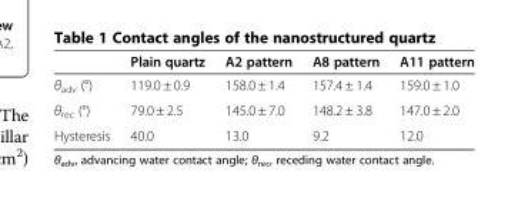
<table><thead><tr><td></td><td>Plain quartz</td><td>A2 pattern</td><td>A8 pattern</td><td>A11 pattern</td></tr></thead><tbody><tr><td>θ<sub>adv</sub> (°)</td><td>119.0 ± 0.9</td><td>158.0 ± 1.4</td><td>157.4 ± 1.4</td><td>159.0 ± 1.0</td></tr><tr><td>θ<sub>rec</sub> (°)</td><td>79.0 ± 2.5</td><td>145.0 ± 7.0</td><td>148.2 ± 3.8</td><td>147.0 ± 2.0</td></tr><tr><td>Hysteresis</td><td>40.0</td><td>13.0</td><td>9.2</td><td>12.0</td></tr></tbody></table>